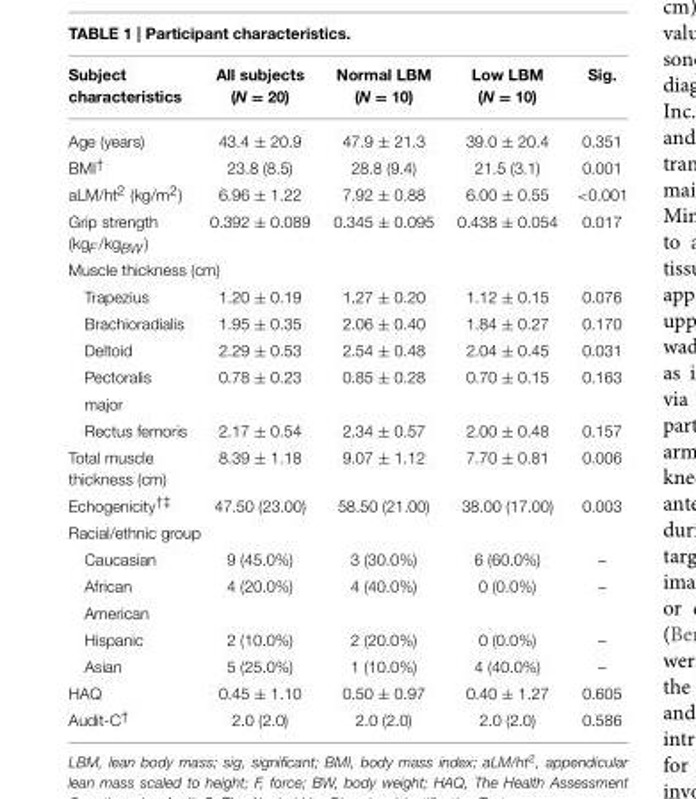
<table><thead><tr><td>Subject characteristics</td><td>All subjects (N = 20)</td><td>Normal LBM (N = 10)</td><td>Low LBM (N = 10)</td><td>Sig.</td></tr></thead><tbody><tr><td>Age (years)</td><td>43.4 ± 20.9</td><td>47.9 ± 21.3</td><td>39.0 ± 20.4</td><td>0.351</td></tr><tr><td>BMI<sup>†</sup></td><td>23.8 (8.5)</td><td>28.8 (9.4)</td><td>21.5 (3.1)</td><td>0.001</td></tr><tr><td>aLM/ht<sup>2</sup> (kg/m<sup>2</sup>)</td><td>6.96 ± 1.22</td><td>7.92 ± 0.88</td><td>6.00 ± 0.55</td><td>&lt;0.001</td></tr><tr><td>Grip strength (kg<sub>F</sub>/kg<sub>BW</sub>)</td><td>0.392 ± 0.089</td><td>0.345 ± 0.095</td><td>0.438 ± 0.054</td><td>0.017</td></tr><tr><td colspan="5">Muscle thickness (cm)</td></tr><tr><td>Trapezius</td><td>1.20 ± 0.19</td><td>1.27 ± 0.20</td><td>1.12 ± 0.15</td><td>0.076</td></tr><tr><td>Brachioradialis</td><td>1.95 ± 0.35</td><td>2.06 ± 0.40</td><td>1.84 ± 0.27</td><td>0.170</td></tr><tr><td>Deltoid</td><td>2.29 ± 0.53</td><td>2.54 ± 0.48</td><td>2.04 ± 0.45</td><td>0.031</td></tr><tr><td>Pectoralis</td><td>0.78 ± 0.23</td><td>0.85 ± 0.28</td><td>0.70 ± 0.15</td><td>0.163</td></tr><tr><td colspan="5">major</td></tr><tr><td>Rectus femoris</td><td>2.17 ± 0.54</td><td>2.34 ± 0.57</td><td>2.00 ± 0.48</td><td>0.157</td></tr><tr><td>Total muscle thickness (cm)</td><td>8.39 ± 1.18</td><td>9.07 ± 1.12</td><td>7.70 ± 0.81</td><td>0.006</td></tr><tr><td>Echogenicity<sup>†‡</sup></td><td>47.50 (23.00)</td><td>58.50 (21.00)</td><td>38.00 (17.00)</td><td>0.003</td></tr><tr><td colspan="5">Racial/ethnic group</td></tr><tr><td>Caucasian</td><td>9 (45.0%)</td><td>3 (30.0%)</td><td>6 (60.0%)</td><td>–</td></tr><tr><td>African</td><td>4 (20.0%)</td><td>4 (40.0%)</td><td>0 (0.0%)</td><td>–</td></tr><tr><td colspan="5">American</td></tr><tr><td>Hispanic</td><td>2 (10.0%)</td><td>2 (20.0%)</td><td>0 (0.0%)</td><td>–</td></tr><tr><td>Asian</td><td>5 (25.0%)</td><td>1 (10.0%)</td><td>4 (40.0%)</td><td>–</td></tr><tr><td>HAQ</td><td>0.45 ± 1.10</td><td>0.50 ± 0.97</td><td>0.40 ± 1.27</td><td>0.605</td></tr><tr><td>Audit-C<sup>†</sup></td><td>2.0 (2.0)</td><td>2.0 (2.0)</td><td>2.0 (2.0)</td><td>0.586</td></tr></tbody></table>